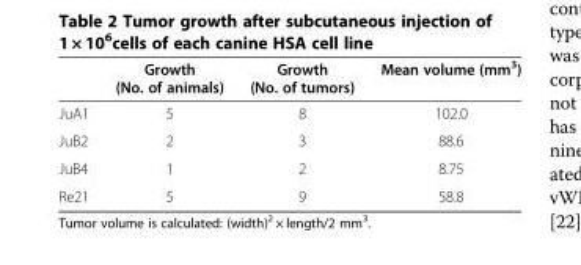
<table><thead><tr><td></td><td>Growth (No. of animals)</td><td>Growth (No. of tumors)</td><td>Mean volume (mm<sup>3</sup>)</td></tr></thead><tbody><tr><td>JuA1</td><td>5</td><td>8</td><td>102.0</td></tr><tr><td>JuB2</td><td>2</td><td>3</td><td>88.6</td></tr><tr><td>JuB4</td><td>1</td><td>2</td><td>8.75</td></tr><tr><td>Re21</td><td>5</td><td>9</td><td>58.8</td></tr></tbody></table>